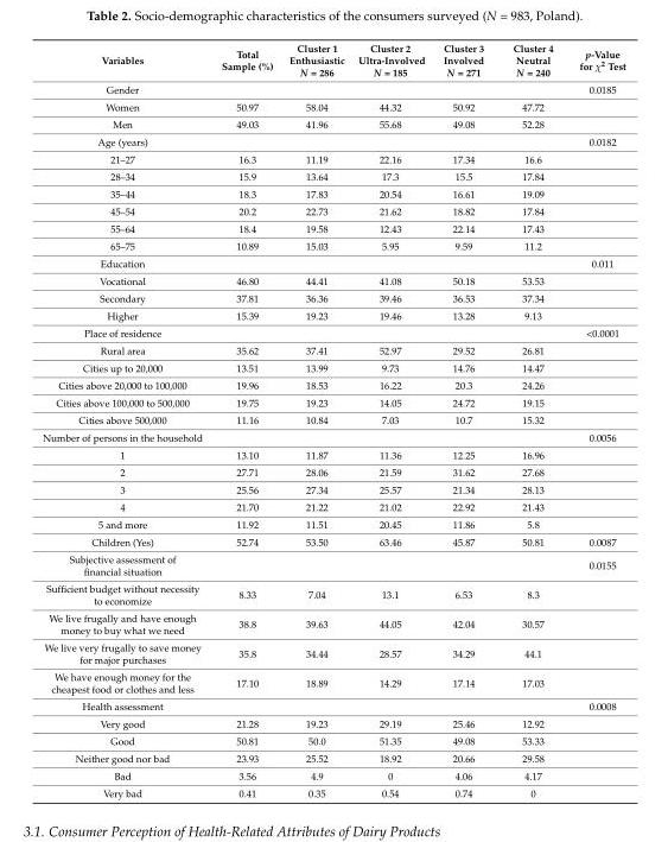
<table><thead><tr><td>Variables</td><td>Total Sample (%)</td><td>Cluster 1 Enthusiastic N = 286</td><td>Cluster 2 Ultra-Involved N = 185</td><td>Cluster 3 Involved N = 271</td><td>Cluster 4 Neutral N = 240</td><td>p-Value for χ<sup>2</sup> Test</td></tr></thead><tbody><tr><td>Gender</td><td></td><td></td><td></td><td></td><td></td><td>0.0185</td></tr><tr><td>Women</td><td>50.97</td><td>58.04</td><td>44.32</td><td>50.92</td><td>47.72</td><td></td></tr><tr><td>Men</td><td>49.03</td><td>41.96</td><td>55.68</td><td>49.08</td><td>52.28</td><td></td></tr><tr><td>Age (years)</td><td></td><td></td><td></td><td></td><td></td><td>0.0182</td></tr><tr><td>21–27</td><td>16.3</td><td>11.19</td><td>22.16</td><td>17.34</td><td>16.6</td><td></td></tr><tr><td>28–34</td><td>15.9</td><td>13.64</td><td>17.3</td><td>15.5</td><td>17.84</td><td></td></tr><tr><td>35–44</td><td>18.3</td><td>17.83</td><td>20.54</td><td>16.61</td><td>19.09</td><td></td></tr><tr><td>45–54</td><td>20.2</td><td>22.73</td><td>21.62</td><td>18.82</td><td>17.84</td><td></td></tr><tr><td>55–64</td><td>18.4</td><td>19.58</td><td>12.43</td><td>22.14</td><td>17.43</td><td></td></tr><tr><td>65–75</td><td>10.89</td><td>15.03</td><td>5.95</td><td>9.59</td><td>11.2</td><td></td></tr><tr><td>Education</td><td></td><td></td><td></td><td></td><td></td><td>0.011</td></tr><tr><td>Vocational</td><td>46.80</td><td>44.41</td><td>41.08</td><td>50.18</td><td>53.53</td><td></td></tr><tr><td>Secondary</td><td>37.81</td><td>36.36</td><td>39.46</td><td>36.53</td><td>37.34</td><td></td></tr><tr><td>Higher</td><td>15.39</td><td>19.23</td><td>19.46</td><td>13.28</td><td>9.13</td><td></td></tr><tr><td>Place of residence</td><td></td><td></td><td></td><td></td><td></td><td>&lt;0.0001</td></tr><tr><td>Rural area</td><td>35.62</td><td>37.41</td><td>52.97</td><td>29.52</td><td>26.81</td><td></td></tr><tr><td>Cities up to 20,000</td><td>13.51</td><td>13.99</td><td>9.73</td><td>14.76</td><td>14.47</td><td></td></tr><tr><td>Cities above 20,000 to 100,000</td><td>19.96</td><td>18.53</td><td>16.22</td><td>20.3</td><td>24.26</td><td></td></tr><tr><td>Cities above 100,000 to 500,000</td><td>19.75</td><td>19.23</td><td>14.05</td><td>24.72</td><td>19.15</td><td></td></tr><tr><td>Cities above 500,000</td><td>11.16</td><td>10.84</td><td>7.03</td><td>10.7</td><td>15.32</td><td></td></tr><tr><td>Number of persons in the household</td><td></td><td></td><td></td><td></td><td></td><td>0.0056</td></tr><tr><td>1</td><td>13.10</td><td>11.87</td><td>11.36</td><td>12.25</td><td>16.96</td><td></td></tr><tr><td>2</td><td>27.71</td><td>28.06</td><td>21.59</td><td>31.62</td><td>27.68</td><td></td></tr><tr><td>3</td><td>25.56</td><td>27.34</td><td>25.57</td><td>21.34</td><td>28.13</td><td></td></tr><tr><td>4</td><td>21.70</td><td>21.22</td><td>21.02</td><td>22.92</td><td>21.43</td><td></td></tr><tr><td>5 and more</td><td>11.92</td><td>11.51</td><td>20.45</td><td>11.86</td><td>5.8</td><td></td></tr><tr><td>Children (Yes)</td><td>52.74</td><td>53.50</td><td>63.46</td><td>45.87</td><td>50.81</td><td>0.0087</td></tr><tr><td>Subjective assessment of financial situation</td><td></td><td></td><td></td><td></td><td></td><td>0.0155</td></tr><tr><td>Sufficient budget without necessity to economize</td><td>8.33</td><td>7.04</td><td>13.1</td><td>6.53</td><td>8.3</td><td></td></tr><tr><td>We live frugally and have enough money to buy what we need</td><td>38.8</td><td>39.63</td><td>44.05</td><td>42.04</td><td>30.57</td><td></td></tr><tr><td>We live very frugally to save money for major purchases</td><td>35.8</td><td>34.44</td><td>28.57</td><td>34.29</td><td>44.1</td><td></td></tr><tr><td>We have enough money for the cheapest food or clothes and less</td><td>17.10</td><td>18.89</td><td>14.29</td><td>17.14</td><td>17.03</td><td></td></tr><tr><td>Health assessment</td><td></td><td></td><td></td><td></td><td></td><td>0.0008</td></tr><tr><td>Very good</td><td>21.28</td><td>19.23</td><td>29.19</td><td>25.46</td><td>12.92</td><td></td></tr><tr><td>Good</td><td>50.81</td><td>50.0</td><td>51.35</td><td>49.08</td><td>53.33</td><td></td></tr><tr><td>Neither good nor bad</td><td>23.93</td><td>25.52</td><td>18.92</td><td>20.66</td><td>29.58</td><td></td></tr><tr><td>Bad</td><td>3.56</td><td>4.9</td><td>0</td><td>4.06</td><td>4.17</td><td></td></tr><tr><td>Very bad</td><td>0.41</td><td>0.35</td><td>0.54</td><td>0.74</td><td>0</td><td></td></tr></tbody></table>